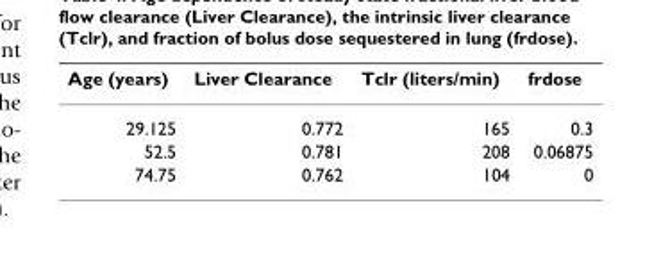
<table><thead><tr><td>Age (years)</td><td>Liver Clearance</td><td>Tclr (liters/min)</td><td>frdose</td></tr></thead><tbody><tr><td>29.125</td><td>0.772</td><td>165</td><td>0.3</td></tr><tr><td>52.5</td><td>0.781</td><td>208</td><td>0.06875</td></tr><tr><td>74.75</td><td>0.762</td><td>104</td><td>0</td></tr></tbody></table>